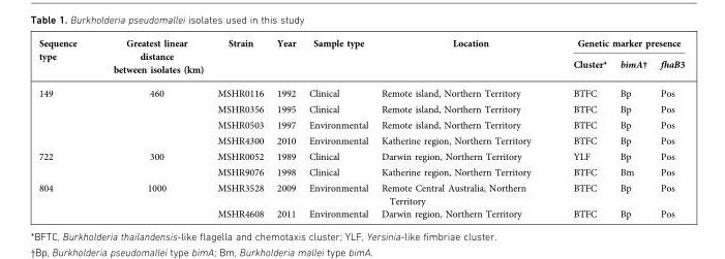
<table><thead><tr><td rowspan="2">Sequence type</td><td rowspan="2">Greatest linear distance between isolates (km)</td><td rowspan="2">Strain</td><td rowspan="2">Year</td><td rowspan="2">Sample type</td><td rowspan="2">Location</td><td colspan="3">Genetic marker presence</td></tr><tr><td>Cluster*</td><td>bimA†</td><td>fhaB3</td></tr></thead><tbody><tr><td rowspan="4">149</td><td rowspan="4">460</td><td>MSHR0116</td><td>1992</td><td>Clinical</td><td>Remote island, Northern Territory</td><td>BTFC</td><td>Bp</td><td>Pos</td></tr><tr><td>MSHR0356</td><td>1995</td><td>Clinical</td><td>Remote island, Northern Territory</td><td>BTFC</td><td>Bp</td><td>Pos</td></tr><tr><td>MSHR0503</td><td>1997</td><td>Environmental</td><td>Remote island, Northern Territory</td><td>BTFC</td><td>Bp</td><td>Pos</td></tr><tr><td>MSHR4300</td><td>2010</td><td>Environmental</td><td>Katherine region, Northern Territory</td><td>BTFC</td><td>Bp</td><td>Pos</td></tr><tr><td rowspan="2">722</td><td rowspan="2">300</td><td>MSHR0052</td><td>1989</td><td>Clinical</td><td>Darwin region, Northern Territory</td><td>YLF</td><td>Bp</td><td>Pos</td></tr><tr><td>MSHR9076</td><td>1998</td><td>Clinical</td><td>Katherine region, Northern Territory</td><td>BTFC</td><td>Bm</td><td>Pos</td></tr><tr><td rowspan="2">804</td><td rowspan="2">1000</td><td>MSHR3528</td><td>2009</td><td>Environmental</td><td>Remote Central Australia, Northern Territory</td><td>BTFC</td><td>Bp</td><td>Pos</td></tr><tr><td>MSHR4608</td><td>2011</td><td>Environmental</td><td>Darwin region, Northern Territory</td><td>BTFC</td><td>Bp</td><td>Pos</td></tr></tbody></table>